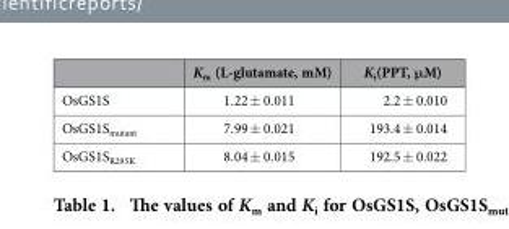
<table><thead><tr><td></td><td>K<sub>m</sub> (L-glutamate, mM)</td><td>K<sub>i</sub>(PPT, μM)</td></tr></thead><tbody><tr><td>OsGS1S</td><td>1.22 ± 0.011</td><td>2.2 ± 0.010</td></tr><tr><td>OsGS1S<sub>mutant</sub></td><td>7.99 ± 0.021</td><td>193.4 ± 0.014</td></tr><tr><td>OsGS1S<sub>R295K</sub></td><td>8.04 ± 0.015</td><td>192.5 ± 0.022</td></tr></tbody></table>